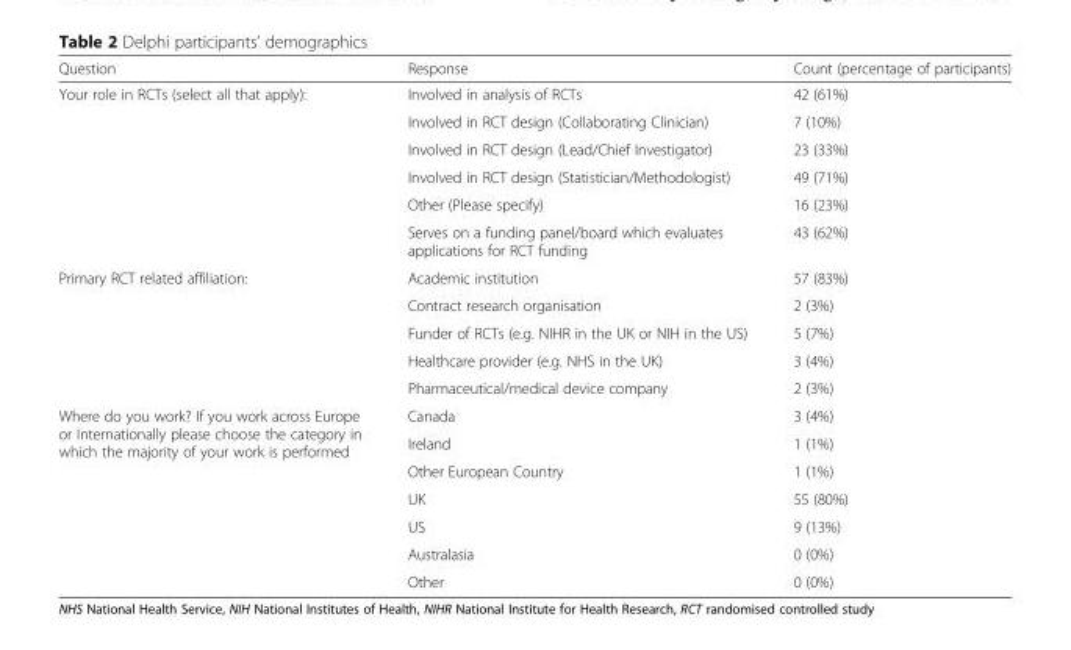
<table><thead><tr><td>Question</td><td>Response</td><td>Count (percentage of participants)</td></tr></thead><tbody><tr><td rowspan="6">Your role in RCTs (select all that apply):</td><td>Involved in analysis of RCTs</td><td>42 (61%)</td></tr><tr><td>Involved in RCT design (Collaborating Clinician)</td><td>7 (10%)</td></tr><tr><td>Involved in RCT design (Lead/Chief Investigator)</td><td>23 (33%)</td></tr><tr><td>Involved in RCT design (Statistician/Methodologist)</td><td>49 (71%)</td></tr><tr><td>Other (Please specify)</td><td>16 (23%)</td></tr><tr><td>Serves on a funding panel/board which evaluates applications for RCT funding</td><td>43 (62%)</td></tr><tr><td rowspan="5">Primary RCT related affiliation:</td><td>Academic institution</td><td>57 (83%)</td></tr><tr><td>Contract research organisation</td><td>2 (3%)</td></tr><tr><td>Funder of RCTs (e.g. NIHR in the UK or NIH in the US)</td><td>5 (7%)</td></tr><tr><td>Healthcare provider (e.g. NHS in the UK)</td><td>3 (4%)</td></tr><tr><td>Pharmaceutical/medical device company</td><td>2 (3%)</td></tr><tr><td rowspan="7">Where do you work? If you work across Europe or Internationally please choose the category in which the majority of your work is performed</td><td>Canada</td><td>3 (4%)</td></tr><tr><td>Ireland</td><td>1 (1%)</td></tr><tr><td>Other European Country</td><td>1 (1%)</td></tr><tr><td>UK</td><td>55 (80%)</td></tr><tr><td>US</td><td>9 (13%)</td></tr><tr><td>Australasia</td><td>0 (0%)</td></tr><tr><td>Other</td><td>0 (0%)</td></tr></tbody></table>